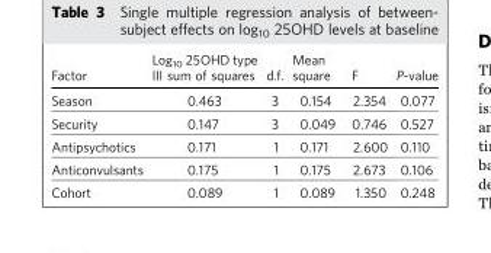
<table><thead><tr><td>Factor</td><td>Log<sub>10</sub> 25OHD type III sum of squares</td><td>d.f.</td><td>Mean square</td><td>F</td><td>P-value</td></tr></thead><tbody><tr><td>Season</td><td>0.463</td><td>3</td><td>0.154</td><td>2.354</td><td>0.077</td></tr><tr><td>Security</td><td>0.147</td><td>3</td><td>0.049</td><td>0.746</td><td>0.527</td></tr><tr><td>Antipsychotics</td><td>0.171</td><td>1</td><td>0.171</td><td>2.600</td><td>0.110</td></tr><tr><td>Anticonvulsants</td><td>0.175</td><td>1</td><td>0.175</td><td>2.673</td><td>0.106</td></tr><tr><td>Cohort</td><td>0.089</td><td>1</td><td>0.089</td><td>1.350</td><td>0.248</td></tr></tbody></table>